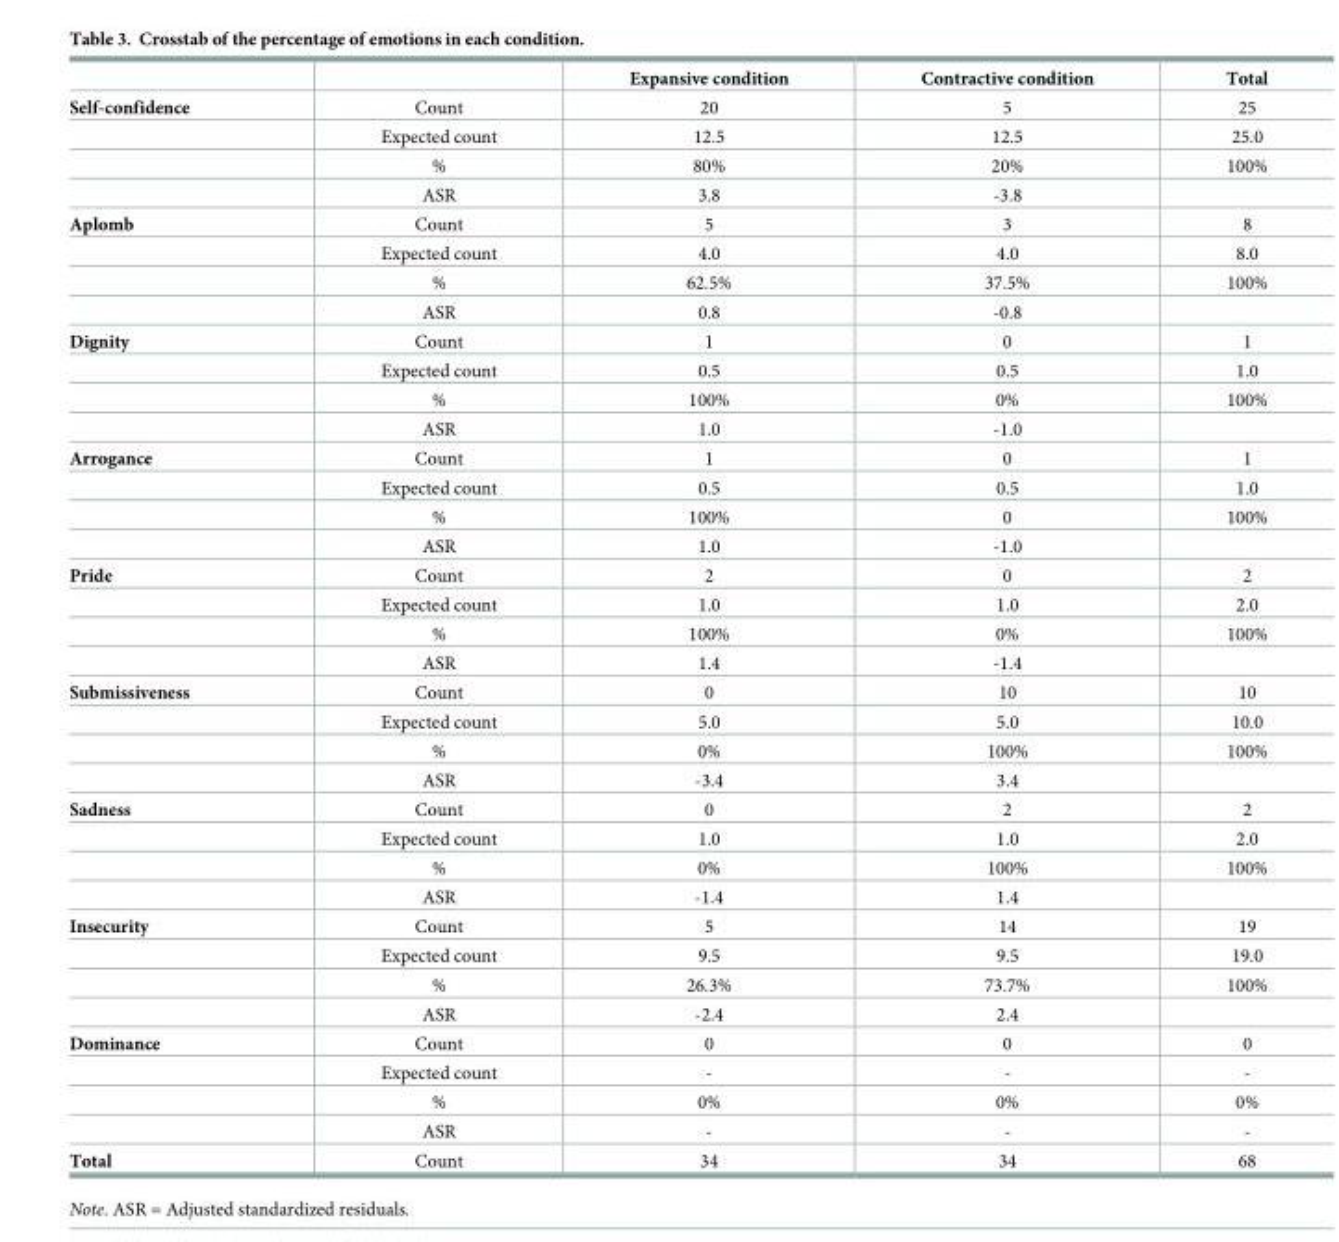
<table><thead><tr><td></td><td></td><td>Expansive condition</td><td>Contractive condition</td><td>Total</td></tr></thead><tbody><tr><td rowspan="4">Self-confidence</td><td>Count</td><td>20</td><td>5</td><td>25</td></tr><tr><td>Expected count</td><td>12.5</td><td>12.5</td><td>25.0</td></tr><tr><td>%</td><td>80%</td><td>20%</td><td>100%</td></tr><tr><td>ASR</td><td>3.8</td><td>-3.8</td><td></td></tr><tr><td rowspan="4">Aplomb</td><td>Count</td><td>5</td><td>3</td><td>8</td></tr><tr><td>Expected count</td><td>4.0</td><td>4.0</td><td>8.0</td></tr><tr><td>%</td><td>62.5%</td><td>37.5%</td><td>100%</td></tr><tr><td>ASR</td><td>0.8</td><td>-0.8</td><td></td></tr><tr><td rowspan="4">Dignity</td><td>Count</td><td>1</td><td>0</td><td>1</td></tr><tr><td>Expected count</td><td>0.5</td><td>0.5</td><td>1.0</td></tr><tr><td>%</td><td>100%</td><td>0%</td><td>100%</td></tr><tr><td>ASR</td><td>1.0</td><td>-1.0</td><td></td></tr><tr><td rowspan="4">Arrogance</td><td>Count</td><td>1</td><td>0</td><td>1</td></tr><tr><td>Expected count</td><td>0.5</td><td>0.5</td><td>1.0</td></tr><tr><td>%</td><td>100%</td><td>0</td><td>100%</td></tr><tr><td>ASR</td><td>1.0</td><td>-1.0</td><td></td></tr><tr><td rowspan="4">Pride</td><td>Count</td><td>2</td><td>0</td><td>2</td></tr><tr><td>Expected count</td><td>1.0</td><td>1.0</td><td>2.0</td></tr><tr><td>%</td><td>100%</td><td>0%</td><td>100%</td></tr><tr><td>ASR</td><td>1.4</td><td>-1.4</td><td></td></tr><tr><td rowspan="4">Submissiveness</td><td>Count</td><td>0</td><td>10</td><td>10</td></tr><tr><td>Expected count</td><td>5.0</td><td>5.0</td><td>10.0</td></tr><tr><td>%</td><td>0%</td><td>100%</td><td>100%</td></tr><tr><td>ASR</td><td>-3.4</td><td>3.4</td><td></td></tr><tr><td rowspan="4">Sadness</td><td>Count</td><td>0</td><td>2</td><td>2</td></tr><tr><td>Expected count</td><td>1.0</td><td>1.0</td><td>2.0</td></tr><tr><td>%</td><td>0%</td><td>100%</td><td>100%</td></tr><tr><td>ASR</td><td>-1.4</td><td>1.4</td><td></td></tr><tr><td rowspan="4">Insecurity</td><td>Count</td><td>5</td><td>14</td><td>19</td></tr><tr><td>Expected count</td><td>9.5</td><td>9.5</td><td>19.0</td></tr><tr><td>%</td><td>26.3%</td><td>73.7%</td><td>100%</td></tr><tr><td>ASR</td><td>-2.4</td><td>2.4</td><td></td></tr><tr><td rowspan="4">Dominance</td><td>Count</td><td>0</td><td>0</td><td>0</td></tr><tr><td>Expected count</td><td>-</td><td>-</td><td>-</td></tr><tr><td>%</td><td>0%</td><td>0%</td><td>0%</td></tr><tr><td>ASR</td><td>-</td><td>-</td><td>-</td></tr><tr><td>Total</td><td>Count</td><td>34</td><td>34</td><td>68</td></tr></tbody></table>